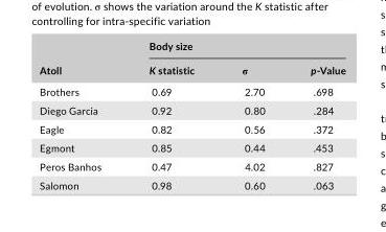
<table><thead><tr><td rowspan="2">Atoll</td><td colspan="3">Body size</td></tr><tr><td>K statistic</td><td>σ</td><td>p- Value</td></tr></thead><tbody><tr><td>Brothers</td><td>0.69</td><td>2.70</td><td>.698</td></tr><tr><td>Diego Garcia</td><td>0.92</td><td>0.80</td><td>.284</td></tr><tr><td>Eagle</td><td>0.82</td><td>0.56</td><td>.372</td></tr><tr><td>Egmont</td><td>0.85</td><td>0.44</td><td>.453</td></tr><tr><td>Peros Banhos</td><td>0.47</td><td>4.02</td><td>.827</td></tr><tr><td>Salomon</td><td>0.98</td><td>0.60</td><td>.063</td></tr></tbody></table>